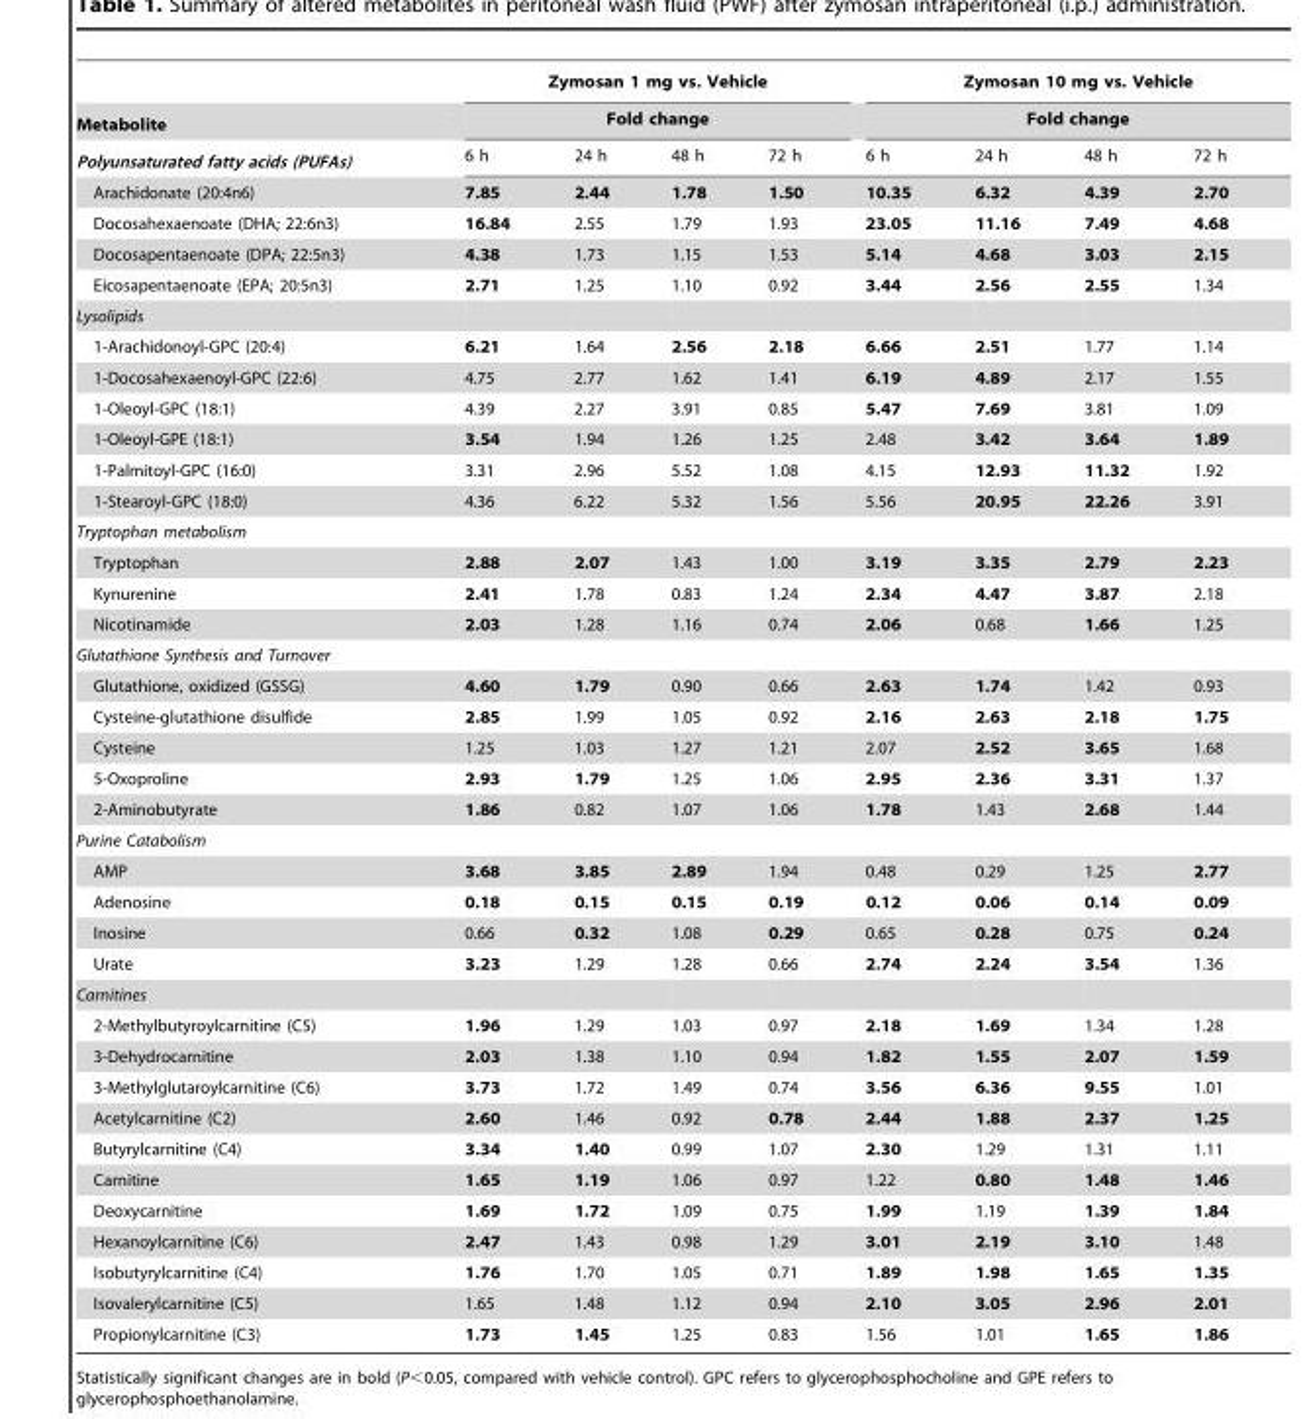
<table><thead><tr><td rowspan="3">Metabolite Polyunsaturated fatty acids (PUFAs)</td><td rowspan="2" colspan="4">Zymosan 1 mg vs. Vehicle Fold change</td><td rowspan="2" colspan="4">Zymosan 10 mg vs. Vehicle Fold change</td></tr><tr></tr><tr><td>6 h</td><td>24 h</td><td>48 h</td><td>72 h</td><td>6 h</td><td>24 h</td><td>48 h</td><td>72 h</td></tr></thead><tbody><tr><td>Arachidonate (20:4n6)</td><td>7.85</td><td>2.44</td><td>1.78</td><td>1.50</td><td>10.35</td><td>6.32</td><td>4.39</td><td>2.70</td></tr><tr><td>Docosahexaenoate (DHA; 22:6n3)</td><td>16.84</td><td>2.55</td><td>1.79</td><td>1.93</td><td>23.05</td><td>11.16</td><td>7.49</td><td>4.68</td></tr><tr><td>Docosapentaenoate (DPA; 22:5n3)</td><td>4.38</td><td>1.73</td><td>1.15</td><td>1.53</td><td>5.14</td><td>4.68</td><td>3.03</td><td>2.15</td></tr><tr><td>Eicosapentaenoate (EPA; 20:5n3)</td><td>2.71</td><td>1.25</td><td>1.10</td><td>0.92</td><td>3.44</td><td>2.56</td><td>2.55</td><td>1.34</td></tr><tr><td colspan="9">Lysolipids</td></tr><tr><td>1-Arachidonoyl-GPC (20:4)</td><td>6.21</td><td>1.64</td><td>2.56</td><td>2.18</td><td>6.66</td><td>2.51</td><td>1.77</td><td>1.14</td></tr><tr><td>1-Docosahexaenoyl-GPC (22:6)</td><td>4.75</td><td>2.77</td><td>1.62</td><td>1.41</td><td>6.19</td><td>4.89</td><td>2.17</td><td>1.55</td></tr><tr><td>1-Oleoyl-GPC (18:1)</td><td>4.39</td><td>2.27</td><td>3.91</td><td>0.85</td><td>5.47</td><td>7.69</td><td>3.81</td><td>1.09</td></tr><tr><td>1-Oleoyl-GPE (18:1)</td><td>3.54</td><td>1.94</td><td>1.26</td><td>1.25</td><td>2.48</td><td>3.42</td><td>3.64</td><td>1.89</td></tr><tr><td>1-Palmitoyl-GPC (16:0)</td><td>3.31</td><td>2.96</td><td>5.52</td><td>1.08</td><td>4.15</td><td>12.93</td><td>11.32</td><td>1.92</td></tr><tr><td>1-Stearoyl-GPC (18:0)</td><td>4.36</td><td>6.22</td><td>5.32</td><td>1.56</td><td>5.56</td><td>20.95</td><td>22.26</td><td>3.91</td></tr><tr><td colspan="9">Tryptophan metabolism</td></tr><tr><td>Tryptophan</td><td>2.88</td><td>2.07</td><td>1.43</td><td>1.00</td><td>3.19</td><td>3.35</td><td>2.79</td><td>2.23</td></tr><tr><td>Kynurenine</td><td>2.41</td><td>1.78</td><td>0.83</td><td>1.24</td><td>2.34</td><td>4.47</td><td>3.87</td><td>2.18</td></tr><tr><td>Nicotinamide</td><td>2.03</td><td>1.28</td><td>1.16</td><td>0.74</td><td>2.06</td><td>0.68</td><td>1.66</td><td>1.25</td></tr><tr><td colspan="9">Glutathione Synthesis and Turnover</td></tr><tr><td>Glutathione, oxidized (GSSG)</td><td>4.60</td><td>1.79</td><td>0.90</td><td>0.66</td><td>2.63</td><td>1.74</td><td>1.42</td><td>0.93</td></tr><tr><td>Cysteine-glutathione disulfide</td><td>2.85</td><td>1.99</td><td>1.05</td><td>0.92</td><td>2.16</td><td>2.63</td><td>2.18</td><td>1.75</td></tr><tr><td>Cysteine</td><td>1.25</td><td>1.03</td><td>1.27</td><td>1.21</td><td>2.07</td><td>2.52</td><td>3.65</td><td>1.68</td></tr><tr><td>5-Oxoproline</td><td>2.93</td><td>1.79</td><td>1.25</td><td>1.06</td><td>2.95</td><td>2.36</td><td>3.31</td><td>1.37</td></tr><tr><td>2-Aminobutyrate</td><td>1.86</td><td>0.82</td><td>1.07</td><td>1.06</td><td>1.78</td><td>1.43</td><td>2.68</td><td>1.44</td></tr><tr><td colspan="9">Purine Catabolism</td></tr><tr><td>AMP</td><td>3.68</td><td>3.85</td><td>2.89</td><td>1.94</td><td>0.48</td><td>0.29</td><td>1.25</td><td>2.77</td></tr><tr><td>Adenosine</td><td>0.18</td><td>0.15</td><td>0.15</td><td>0.19</td><td>0.12</td><td>0.06</td><td>0.14</td><td>0.09</td></tr><tr><td>Inosine</td><td>0.66</td><td>0.32</td><td>1.08</td><td>0.29</td><td>0.65</td><td>0.28</td><td>0.75</td><td>0.24</td></tr><tr><td>Urate</td><td>3.23</td><td>1.29</td><td>1.28</td><td>0.66</td><td>2.74</td><td>2.24</td><td>3.54</td><td>1.36</td></tr><tr><td colspan="9">Carnitines</td></tr><tr><td>2-Methylbutyroylcarnitine (C5)</td><td>1.96</td><td>1.29</td><td>1.03</td><td>0.97</td><td>2.18</td><td>1.69</td><td>1.34</td><td>1.28</td></tr><tr><td>3-Dehydrocarnitine</td><td>2.03</td><td>1.38</td><td>1.10</td><td>0.94</td><td>1.82</td><td>1.55</td><td>2.07</td><td>1.59</td></tr><tr><td>3-Methylglutaroylcarnitine (C6)</td><td>3.73</td><td>1.72</td><td>1.49</td><td>0.74</td><td>3.56</td><td>6.36</td><td>9.55</td><td>1.01</td></tr><tr><td>Acetylcarnitine (C2)</td><td>2.60</td><td>1.46</td><td>0.92</td><td>0.78</td><td>2.44</td><td>1.88</td><td>2.37</td><td>1.25</td></tr><tr><td>Butyrylcarnitine (C4)</td><td>3.34</td><td>1.40</td><td>0.99</td><td>1.07</td><td>2.30</td><td>1.29</td><td>1.31</td><td>1.11</td></tr><tr><td>Carnitine</td><td>1.65</td><td>1.19</td><td>1.06</td><td>0.97</td><td>1.22</td><td>0.80</td><td>1.48</td><td>1.46</td></tr><tr><td>Deoxycarnitine</td><td>1.69</td><td>1.72</td><td>1.09</td><td>0.75</td><td>1.99</td><td>1.19</td><td>1.39</td><td>1.84</td></tr><tr><td>Hexanoylcarnitine (C6)</td><td>2.47</td><td>1.43</td><td>0.98</td><td>1.29</td><td>3.01</td><td>2.19</td><td>3.10</td><td>1.48</td></tr><tr><td>Isobutyrylcarnitine (C4)</td><td>1.76</td><td>1.70</td><td>1.05</td><td>0.71</td><td>1.89</td><td>1.98</td><td>1.65</td><td>1.35</td></tr><tr><td>Isovalerylcarnitine (C5)</td><td>1.65</td><td>1.48</td><td>1.12</td><td>0.94</td><td>2.10</td><td>3.05</td><td>2.96</td><td>2.01</td></tr><tr><td>Propionylcarnitine (C3)</td><td>1.73</td><td>1.45</td><td>1.25</td><td>0.83</td><td>1.56</td><td>1.01</td><td>1.65</td><td>1.86</td></tr></tbody></table>